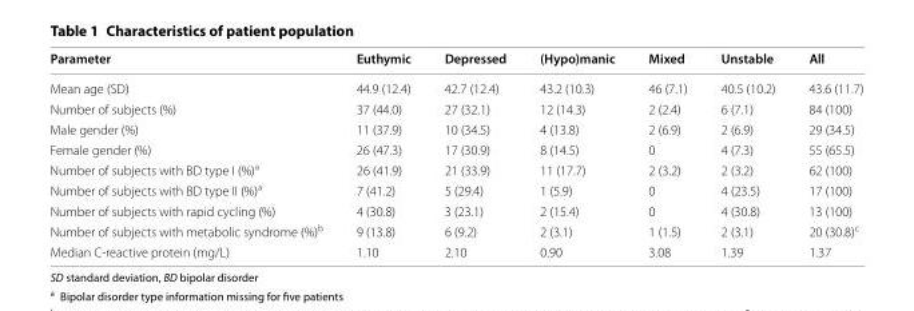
<table><thead><tr><td>Parameter</td><td>Euthymic</td><td>Depressed</td><td>(Hypo)manic</td><td>Mixed</td><td>Unstable</td><td>All</td></tr></thead><tbody><tr><td>Mean age (SD)</td><td>44.9 (12.4)</td><td>42.7 (12.4)</td><td>43.2 (10.3)</td><td>46 (7.1)</td><td>40.5 (10.2)</td><td>43.6 (11.7)</td></tr><tr><td>Number of subjects (%)</td><td>37 (44.0)</td><td>27 (32.1)</td><td>12 (14.3)</td><td>2 (2.4)</td><td>6 (7.1)</td><td>84 (100)</td></tr><tr><td>Male gender (%)</td><td>11 (37.9)</td><td>10 (34.5)</td><td>4 (13.8)</td><td>2 (6.9)</td><td>2 (6.9)</td><td>29 (34.5)</td></tr><tr><td>Female gender (%)</td><td>26 (47.3)</td><td>17 (30.9)</td><td>8 (14.5)</td><td>0</td><td>4 (7.3)</td><td>55 (65.5)</td></tr><tr><td>Number of subjects with BD type I (%)<sup>a</sup></td><td>26 (41.9)</td><td>21 (33.9)</td><td>11 (17.7)</td><td>2 (3.2)</td><td>2 (3.2)</td><td>62 (100)</td></tr><tr><td>Number of subjects with BD type II (%)<sup>a</sup></td><td>7 (41.2)</td><td>5 (29.4)</td><td>1 (5.9)</td><td>0</td><td>4 (23.5)</td><td>17 (100)</td></tr><tr><td>Number of subjects with rapid cycling (%)</td><td>4 (30.8)</td><td>3 (23.1)</td><td>2 (15.4)</td><td>0</td><td>4 (30.8)</td><td>13 (100)</td></tr><tr><td>Number of subjects with metabolic syndrome (%)<sup>b</sup></td><td>9 (13.8)</td><td>6 (9.2)</td><td>2 (3.1)</td><td>1 (1.5)</td><td>2 (3.1)</td><td>20 (30.8)<sup>c</sup></td></tr><tr><td>Median C‑reactive protein (mg/L)</td><td>1.10</td><td>2.10</td><td>0.90</td><td>3.08</td><td>1.39</td><td>1.37</td></tr></tbody></table>